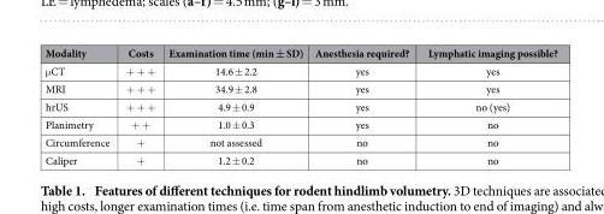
<table><thead><tr><td>Modality</td><td>Costs</td><td>Examination time (min ± SD)</td><td>Anesthesia required?</td><td>Lymphatic imaging possible?</td></tr></thead><tbody><tr><td>μ CT</td><td>+ + +</td><td>14.6 ± 2.2</td><td>yes</td><td>yes</td></tr><tr><td>MRI</td><td>+ + +</td><td>34.9 ± 2.8</td><td>yes</td><td>yes</td></tr><tr><td>hrUS</td><td>+ + +</td><td>4.9 ± 0.9</td><td>yes</td><td>no (yes)</td></tr><tr><td>Planimetry</td><td>+ +</td><td>1.0 ± 0.3</td><td>yes</td><td>no</td></tr><tr><td>Circumference</td><td>+</td><td>not assessed</td><td>no</td><td>no</td></tr><tr><td>Caliper</td><td>+</td><td>1.2 ± 0.2</td><td>no</td><td>no</td></tr></tbody></table>